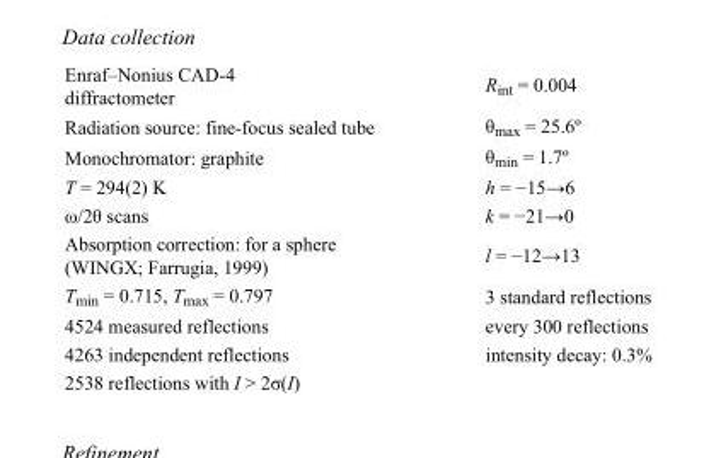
<table><tbody><tr><td>Enraf–Nonius CAD-4 diffractometer</td><td>R<sub>int</sub> = 0.004</td></tr><tr><td>Radiation source: fine-focus sealed tube</td><td>θ<sub>max</sub> = 25.6º</td></tr><tr><td>Monochromator: graphite</td><td>θ<sub>min</sub> = 1.7º</td></tr><tr><td>T = 294(2) K</td><td>h = −15→6</td></tr><tr><td>ω/2θ scans</td><td>k = −21→0</td></tr><tr><td>Absorption correction: for a sphere (WINGX; Farrugia, 1999)</td><td>l = −12→13</td></tr><tr><td>T<sub>min</sub> = 0.715, T<sub>max</sub> = 0.797</td><td>3 standard reflections</td></tr><tr><td>4524 measured reflections</td><td>every 300 reflections</td></tr><tr><td>4263 independent reflections</td><td>intensity decay: 0.3%</td></tr><tr><td>2538 reflections with I &gt; 2σ(I)</td><td></td></tr></tbody></table>